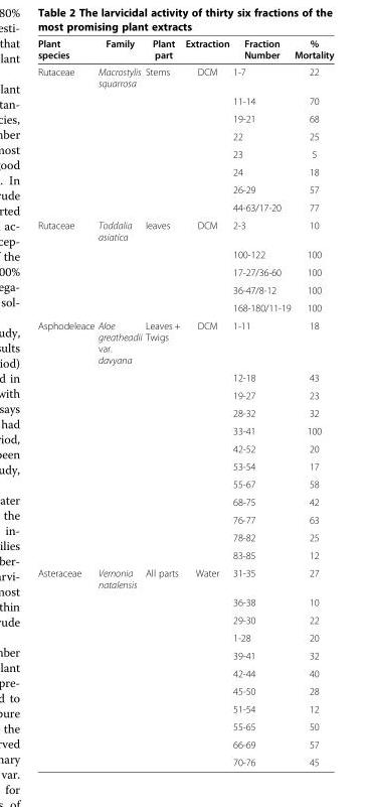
<table><thead><tr><td>Plant species</td><td>Family</td><td>Plant part</td><td>Extraction</td><td>Fraction Number</td><td>% Mortality</td></tr></thead><tbody><tr><td rowspan="8">Rutaceae</td><td>Macrostylis squarrosa</td><td>Stems</td><td>DCM</td><td>1-7</td><td>22</td></tr><tr><td></td><td></td><td></td><td>11-14</td><td>70</td></tr><tr><td></td><td></td><td></td><td>19-21</td><td>68</td></tr><tr><td></td><td></td><td></td><td>22</td><td>25</td></tr><tr><td></td><td></td><td></td><td>23</td><td>5</td></tr><tr><td></td><td></td><td></td><td>24</td><td>18</td></tr><tr><td></td><td></td><td></td><td>26-29</td><td>57</td></tr><tr><td></td><td></td><td></td><td>44-63/17-20</td><td>77</td></tr><tr><td rowspan="5">Rutaceae</td><td>Toddalia asiatica</td><td>leaves</td><td>DCM</td><td>2-3</td><td>10</td></tr><tr><td></td><td></td><td></td><td>100-122</td><td>100</td></tr><tr><td></td><td></td><td></td><td>17-27/36-60</td><td>100</td></tr><tr><td></td><td></td><td></td><td>36-47/8-12</td><td>100</td></tr><tr><td></td><td></td><td></td><td>168-180/11-19</td><td>100</td></tr><tr><td rowspan="12">Asphodeleace</td><td>Aloe greatheadii var. davyana</td><td>Leaves + Twigs</td><td>DCM</td><td>1-11</td><td>18</td></tr><tr><td></td><td></td><td></td><td>12-18</td><td>43</td></tr><tr><td></td><td></td><td></td><td>19-27</td><td>23</td></tr><tr><td></td><td></td><td></td><td>28-32</td><td>32</td></tr><tr><td></td><td></td><td></td><td>33-41</td><td>100</td></tr><tr><td></td><td></td><td></td><td>42-52</td><td>20</td></tr><tr><td></td><td></td><td></td><td>53-54</td><td>17</td></tr><tr><td></td><td></td><td></td><td>55-67</td><td>58</td></tr><tr><td></td><td></td><td></td><td>68-75</td><td>42</td></tr><tr><td></td><td></td><td></td><td>76-77</td><td>63</td></tr><tr><td></td><td></td><td></td><td>78-82</td><td>25</td></tr><tr><td></td><td></td><td></td><td>83-85</td><td>12</td></tr><tr><td rowspan="11">Asteraceae</td><td>Vernonia natalensis</td><td>All parts</td><td>Water</td><td>31-35</td><td>27</td></tr><tr><td></td><td></td><td></td><td>36-38</td><td>10</td></tr><tr><td></td><td></td><td></td><td>29-30</td><td>22</td></tr><tr><td></td><td></td><td></td><td>1-28</td><td>20</td></tr><tr><td></td><td></td><td></td><td>39-41</td><td>32</td></tr><tr><td></td><td></td><td></td><td>42-44</td><td>40</td></tr><tr><td></td><td></td><td></td><td>45-50</td><td>28</td></tr><tr><td></td><td></td><td></td><td>51-54</td><td>12</td></tr><tr><td></td><td></td><td></td><td>55-65</td><td>50</td></tr><tr><td></td><td></td><td></td><td>66-69</td><td>57</td></tr><tr><td></td><td></td><td></td><td>70-76</td><td>45</td></tr></tbody></table>